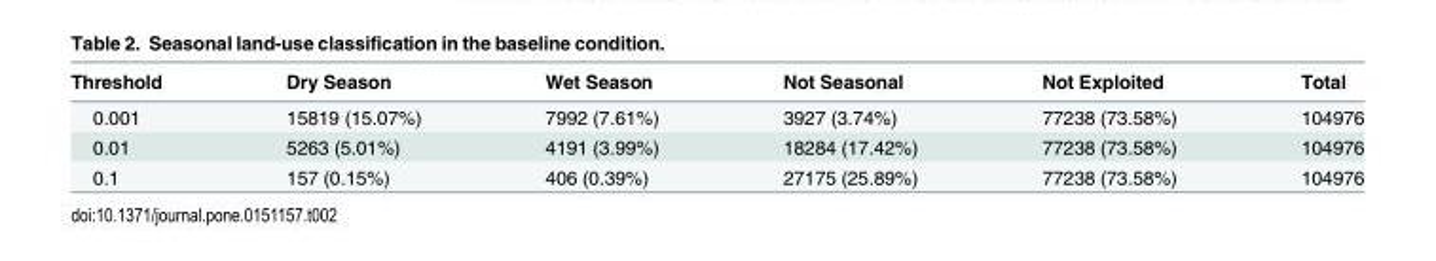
<table><thead><tr><td>Threshold</td><td>Dry Season</td><td>Wet Season</td><td>Not Seasonal</td><td>Not Exploited</td><td>Total</td></tr></thead><tbody><tr><td>0.001</td><td>15819 (15.07%)</td><td>7992 (7.61%)</td><td>3927 (3.74%)</td><td>77238 (73.58%)</td><td>104976</td></tr><tr><td>0.01</td><td>5263 (5.01%)</td><td>4191 (3.99%)</td><td>18284 (17.42%)</td><td>77238 (73.58%)</td><td>104976</td></tr><tr><td>0.1</td><td>157 (0.15%)</td><td>406 (0.39%)</td><td>27175 (25.89%)</td><td>77238 (73.58%)</td><td>104976</td></tr></tbody></table>